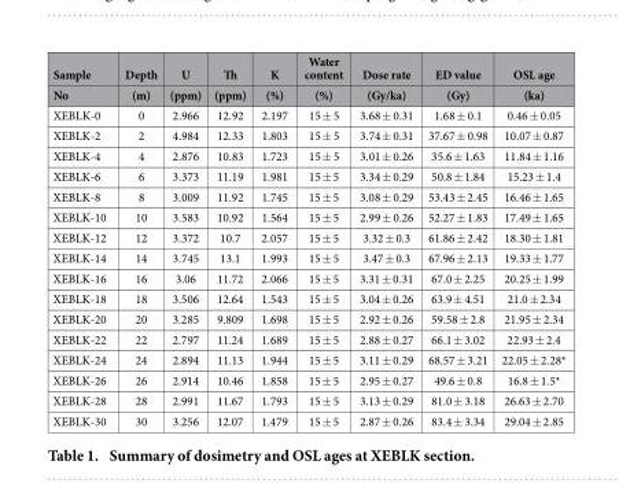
<table><thead><tr><td rowspan="2">Sample No</td><td rowspan="2">Depth (m)</td><td rowspan="2">U (ppm)</td><td rowspan="2">Th (ppm)</td><td rowspan="2">K (%)</td><td rowspan="2">Water content (%)</td><td rowspan="2">Dose rate (Gy/ka)</td><td rowspan="2">ED value (Gy)</td><td rowspan="2">OSL age (ka)</td></tr><tr></tr></thead><tbody><tr><td>XEBLK-0</td><td>0</td><td>2.966</td><td>12.92</td><td>2.197</td><td>15 ± 5</td><td>3.68 ± 0.31</td><td>1.68 ± 0.1</td><td>0.46 ± 0.05</td></tr><tr><td>XEBLK-2</td><td>2</td><td>4.984</td><td>12.33</td><td>1.803</td><td>15 ± 5</td><td>3.74 ± 0.31</td><td>37.67 ± 0.98</td><td>10.07 ± 0.87</td></tr><tr><td>XEBLK-4</td><td>4</td><td>2.876</td><td>10.83</td><td>1.723</td><td>15 ± 5</td><td>3.01 ± 0.26</td><td>35.6 ± 1.63</td><td>11.84 ± 1.16</td></tr><tr><td>XEBLK-6</td><td>6</td><td>3.373</td><td>11.19</td><td>1.981</td><td>15 ± 5</td><td>3.34 ± 0.29</td><td>50.8 ± 1.84</td><td>15.23 ± 1.4</td></tr><tr><td>XEBLK-8</td><td>8</td><td>3.009</td><td>11.92</td><td>1.745</td><td>15 ± 5</td><td>3.08 ± 0.29</td><td>53.43 ± 2.45</td><td>16.46 ± 1.65</td></tr><tr><td>XEBLK-10</td><td>10</td><td>3.583</td><td>10.92</td><td>1.564</td><td>15 ± 5</td><td>2.99 ± 0.26</td><td>52.27 ± 1.83</td><td>17.49 ± 1.65</td></tr><tr><td>XEBLK-12</td><td>12</td><td>3.372</td><td>10.7</td><td>2.057</td><td>15 ± 5</td><td>3.32 ± 0.3</td><td>61.86 ± 2.42</td><td>18.30 ± 1.81</td></tr><tr><td>XEBLK-14</td><td>14</td><td>3.745</td><td>13.1</td><td>1.993</td><td>15 ± 5</td><td>3.47 ± 0.3</td><td>67.96 ± 2.13</td><td>19.33 ± 1.77</td></tr><tr><td>XEBLK-16</td><td>16</td><td>3.06</td><td>11.72</td><td>2.066</td><td>15 ± 5</td><td>3.31 ± 0.31</td><td>67.0 ± 2.25</td><td>20.25 ± 1.99</td></tr><tr><td>XEBLK-18</td><td>18</td><td>3.506</td><td>12.64</td><td>1.543</td><td>15 ± 5</td><td>3.04 ± 0.26</td><td>63.9 ± 4.51</td><td>21.0 ± 2.34</td></tr><tr><td>XEBLK-20</td><td>20</td><td>3.285</td><td>9.809</td><td>1.698</td><td>15 ± 5</td><td>2.92 ± 0.26</td><td>59.58 ± 2.8</td><td>21.95 ± 2.34</td></tr><tr><td>XEBLK-22</td><td>22</td><td>2.797</td><td>11.24</td><td>1.689</td><td>15 ± 5</td><td>2.88 ± 0.27</td><td>66.1 ± 3.02</td><td>22.93 ± 2.4</td></tr><tr><td>XEBLK-24</td><td>24</td><td>2.894</td><td>11.13</td><td>1.944</td><td>15 ± 5</td><td>3.11 ± 0.29</td><td>68.57 ± 3.21</td><td>22.05 ± 2.28*</td></tr><tr><td>XEBLK-26</td><td>26</td><td>2.914</td><td>10.46</td><td>1.858</td><td>15 ± 5</td><td>2.95 ± 0.27</td><td>49.6 ± 0.8</td><td>16.8 ± 1.5*</td></tr><tr><td>XEBLK-28</td><td>28</td><td>2.991</td><td>11.67</td><td>1.793</td><td>15 ± 5</td><td>3.13 ± 0.29</td><td>81.0 ± 3.18</td><td>26.63 ± 2.70</td></tr><tr><td>XEBLK-30</td><td>30</td><td>3.256</td><td>12.07</td><td>1.479</td><td>15 ± 5</td><td>2.87 ± 0.26</td><td>83.4 ± 3.34</td><td>29.04 ± 2.85</td></tr></tbody></table>